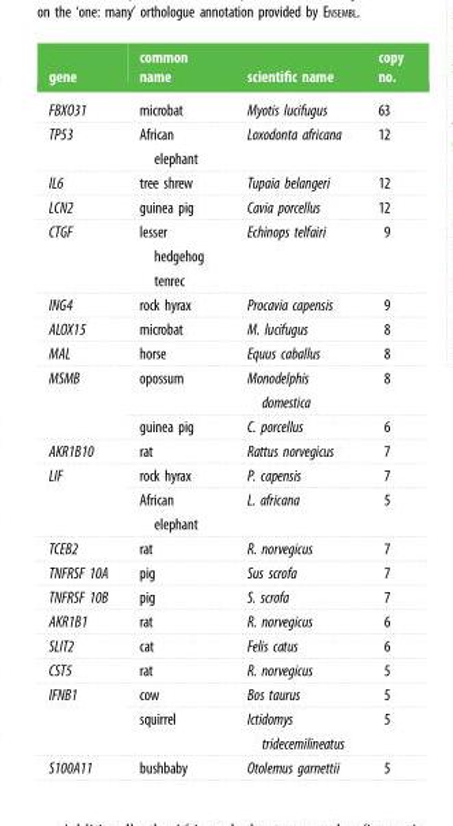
<table><thead><tr><td>gene</td><td>common name</td><td>scientific name</td><td>copy no.</td></tr></thead><tbody><tr><td>FBXO31</td><td>microbat</td><td>Myotis lucifugus</td><td>63</td></tr><tr><td>TP53</td><td>African elephant</td><td>Loxodonta africana</td><td>12</td></tr><tr><td>IL6</td><td>tree shrew</td><td>Tupaia belangeri</td><td>12</td></tr><tr><td>LCN2</td><td>guinea pig</td><td>Cavia porcellus</td><td>12</td></tr><tr><td>CTGF</td><td>lesser hedgehog tenrec</td><td>Echinops telfairi</td><td>9</td></tr><tr><td>ING4</td><td>rock hyrax</td><td>Procavia capensis</td><td>9</td></tr><tr><td>ALOX15</td><td>microbat</td><td>M. lucifugus</td><td>8</td></tr><tr><td>MAL</td><td>horse</td><td>Equus caballus</td><td>8</td></tr><tr><td rowspan="2">MSMB</td><td>opossum</td><td>Monodelphis domestica</td><td>8</td></tr><tr><td>guinea pig</td><td>C. porcellus</td><td>6</td></tr><tr><td>AKR1B10</td><td>rat</td><td>Rattus norvegicus</td><td>7</td></tr><tr><td rowspan="2">LIF</td><td>rock hyrax</td><td>P. capensis</td><td>7</td></tr><tr><td>African elephant</td><td>L. africana</td><td>5</td></tr><tr><td>TCEB2</td><td>rat</td><td>R. norvegicus</td><td>7</td></tr><tr><td>TNFRSF 10A</td><td>pig</td><td>Sus scrofa</td><td>7</td></tr><tr><td>TNFRSF 10B</td><td>pig</td><td>S. scrofa</td><td>7</td></tr><tr><td>AKR1B1</td><td>rat</td><td>R. norvegicus</td><td>6</td></tr><tr><td>SLIT2</td><td>cat</td><td>Felis catus</td><td>6</td></tr><tr><td>CST5</td><td>rat</td><td>R. norvegicus</td><td>5</td></tr><tr><td rowspan="2">IFNB1</td><td>cow</td><td>Bos taurus</td><td>5</td></tr><tr><td>squirrel</td><td>Ictidomys tridecemilineatus</td><td>5</td></tr><tr><td>S100A11</td><td>bushbaby</td><td>Otolemus garnettii</td><td>5</td></tr></tbody></table>